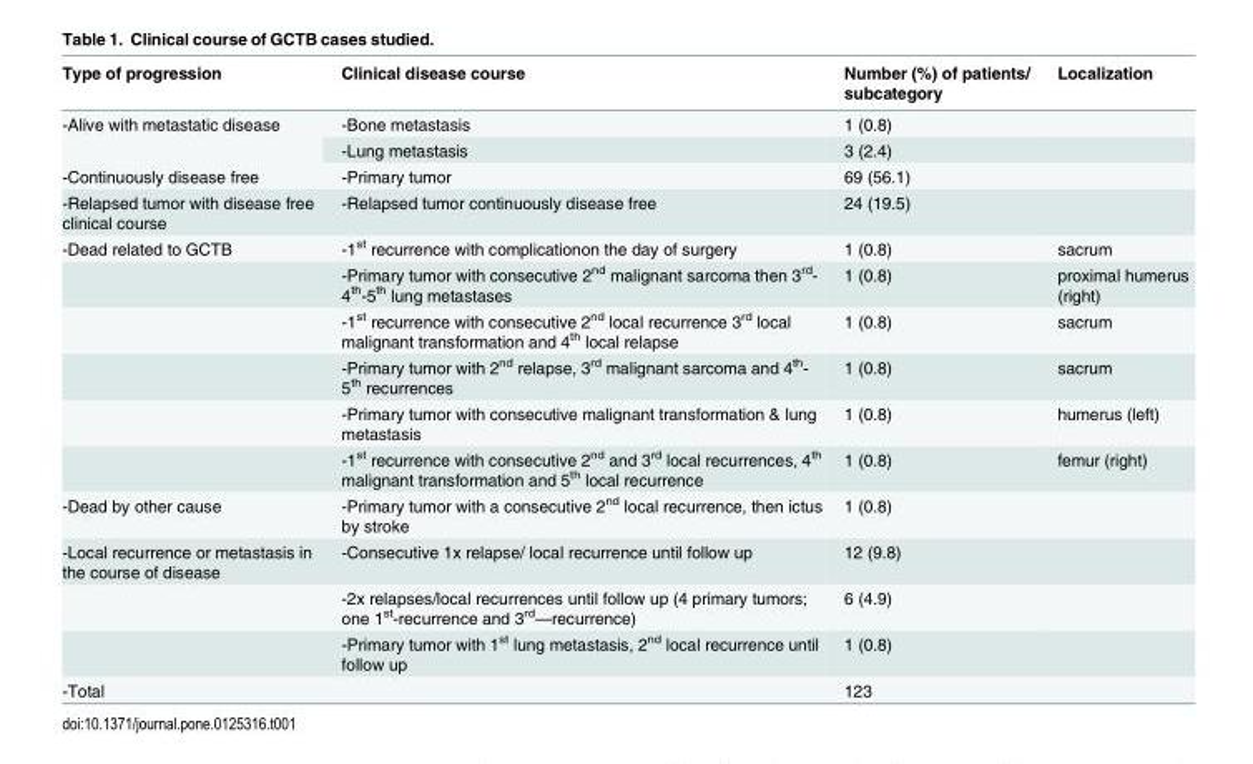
<table><thead><tr><td>Type of progression</td><td>Clinical disease course</td><td>Number (%) of patients/ subcategory</td><td>Localization</td></tr></thead><tbody><tr><td rowspan="2">-Alive with metastatic disease</td><td>-Bone metastasis</td><td>1 (0.8)</td><td></td></tr><tr><td>-Lung metastasis</td><td>3 (2.4)</td><td></td></tr><tr><td>-Continuously disease free</td><td>-Primary tumor</td><td>69 (56.1)</td><td></td></tr><tr><td>-Relapsed tumor with disease free clinical course</td><td>-Relapsed tumor continuously disease free</td><td>24 (19.5)</td><td></td></tr><tr><td rowspan="6">-Dead related to GCTB</td><td>-1<sup>st</sup> recurrence with complicationon the day of surgery</td><td>1 (0.8)</td><td>sacrum</td></tr><tr><td>-Primary tumor with consecutive 2<sup>nd</sup> malignant sarcoma then 3<sup>rd</sup>- 4<sup>th</sup>-5<sup>th</sup> lung metastases</td><td>1 (0.8)</td><td>proximal humerus (right)</td></tr><tr><td>-1<sup>st</sup> recurrence with consecutive 2<sup>nd</sup> local recurrence 3<sup>rd</sup> local malignant transformation and 4<sup>th</sup> local relapse</td><td>1 (0.8)</td><td>sacrum</td></tr><tr><td>-Primary tumor with 2<sup>nd</sup> relapse, 3<sup>rd</sup> malignant sarcoma and 4<sup>th</sup>- 5<sup>th</sup> recurrences</td><td>1 (0.8)</td><td>sacrum</td></tr><tr><td>-Primary tumor with consecutive malignant transformation &amp; lung metastasis</td><td>1 (0.8)</td><td>humerus (left)</td></tr><tr><td>-1<sup>st</sup> recurrence with consecutive 2<sup>nd</sup> and 3<sup>rd</sup> local recurrences, 4<sup>th</sup> malignant transformation and 5<sup>th</sup> local recurrence</td><td>1 (0.8)</td><td>femur (right)</td></tr><tr><td>-Dead by other cause</td><td>-Primary tumor with a consecutive 2<sup>nd</sup> local recurrence, then ictus by stroke</td><td>1 (0.8)</td><td></td></tr><tr><td rowspan="3">-Local recurrence or metastasis in the course of disease</td><td>-Consecutive 1x relapse/ local recurrence until follow up</td><td>12 (9.8)</td><td></td></tr><tr><td>-2x relapses/local recurrences until follow up (4 primary tumors; one 1<sup>st</sup>-recurrence and 3<sup>rd</sup>—recurrence)</td><td>6 (4.9)</td><td></td></tr><tr><td>-Primary tumor with 1<sup>st</sup> lung metastasis, 2<sup>nd</sup> local recurrence until follow up</td><td>1 (0.8)</td><td></td></tr><tr><td>-Total</td><td></td><td>123</td><td></td></tr></tbody></table>